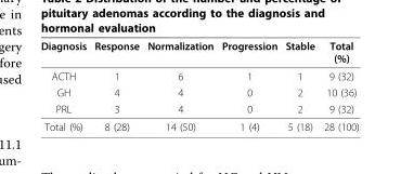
<table><thead><tr><td>Diagnosis</td><td>Response</td><td>Normalization</td><td>Progression</td><td>Stable</td><td>Total (%)</td></tr></thead><tbody><tr><td>ACTH</td><td>1</td><td>6</td><td>1</td><td>1</td><td>9 (32)</td></tr><tr><td>GH</td><td>4</td><td>4</td><td>0</td><td>2</td><td>10 (36)</td></tr><tr><td>PRL</td><td>3</td><td>4</td><td>0</td><td>2</td><td>9 (32)</td></tr><tr><td>Total (%)</td><td>8 (28)</td><td>14 (50)</td><td>1 (4)</td><td>5 (18)</td><td>28 (100)</td></tr></tbody></table>